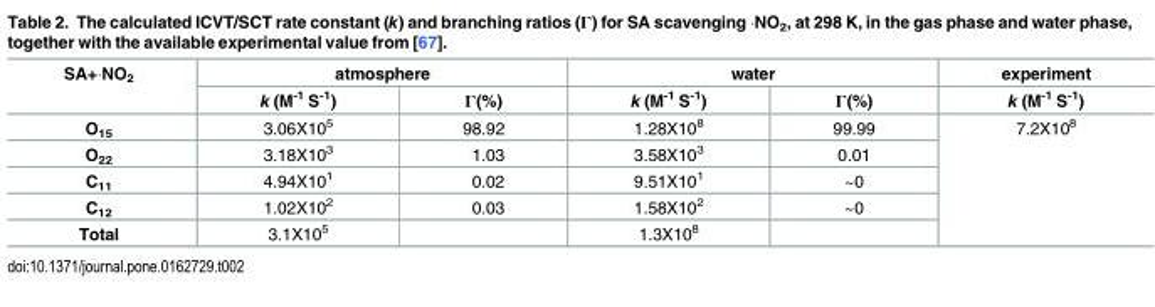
<table><thead><tr><td rowspan="2">SA+·NO<sub>2</sub></td><td colspan="2">atmosphere</td><td colspan="2">water</td><td rowspan="2">experiment k (M<sup>-1</sup> S<sup>-1</sup>)</td></tr><tr><td>k (M<sup>-1</sup> S<sup>-1</sup>)</td><td>Γ(%)</td><td>k (M<sup>-1</sup> S<sup>-1</sup>)</td><td>Γ(%)</td></tr></thead><tbody><tr><td>O<sub>15</sub></td><td>3.06X10<sup>5</sup></td><td>98.92</td><td>1.28X10<sup>8</sup></td><td>99.99</td><td rowspan="5">7.2X10<sup>8</sup></td></tr><tr><td>O<sub>22</sub></td><td>3.18X10<sup>3</sup></td><td>1.03</td><td>3.58X10<sup>3</sup></td><td>0.01</td></tr><tr><td>C<sub>11</sub></td><td>4.94X10<sup>1</sup></td><td>0.02</td><td>9.51X10<sup>1</sup></td><td>~0</td></tr><tr><td>C<sub>12</sub></td><td>1.02X10<sup>2</sup></td><td>0.03</td><td>1.58X10<sup>2</sup></td><td>~0</td></tr><tr><td>Total</td><td>3.1X10<sup>5</sup></td><td></td><td>1.3X10<sup>8</sup></td><td></td></tr></tbody></table>